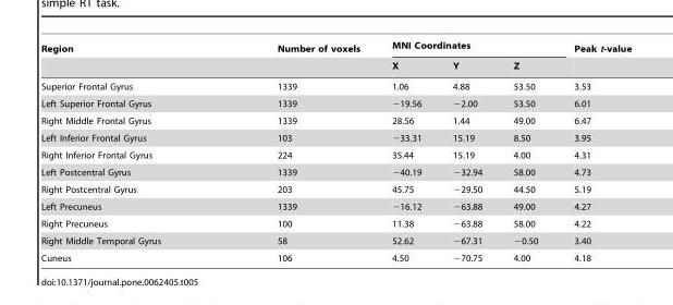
<table><thead><tr><td rowspan="2">Region</td><td rowspan="2">Number of voxels</td><td colspan="3">MNI Coordinates</td><td rowspan="2">Peak t-value</td></tr><tr><td>X</td><td>Y</td><td>Z</td></tr></thead><tbody><tr><td>Superior Frontal Gyrus</td><td>1339</td><td>1.06</td><td>4.88</td><td>53.50</td><td>3.53</td></tr><tr><td>Left Superior Frontal Gyrus</td><td>1339</td><td>−19.56</td><td>−2.00</td><td>53.50</td><td>6.01</td></tr><tr><td>Right Middle Frontal Gyrus</td><td>1339</td><td>28.56</td><td>1.44</td><td>49.00</td><td>6.47</td></tr><tr><td>Left Inferior Frontal Gyrus</td><td>103</td><td>−33.31</td><td>15.19</td><td>8.50</td><td>3.95</td></tr><tr><td>Right Inferior Frontal Gyrus</td><td>224</td><td>35.44</td><td>15.19</td><td>4.00</td><td>4.31</td></tr><tr><td>Left Postcentral Gyrus</td><td>1339</td><td>−40.19</td><td>−32.94</td><td>58.00</td><td>4.73</td></tr><tr><td>Right Postcentral Gyrus</td><td>203</td><td>45.75</td><td>−29.50</td><td>44.50</td><td>5.19</td></tr><tr><td>Left Precuneus</td><td>1339</td><td>−16.12</td><td>−63.88</td><td>49.00</td><td>4.27</td></tr><tr><td>Right Precuneus</td><td>100</td><td>11.38</td><td>−63.88</td><td>58.00</td><td>4.22</td></tr><tr><td>Right Middle Temporal Gyrus</td><td>58</td><td>52.62</td><td>−67.31</td><td>−0.50</td><td>3.40</td></tr><tr><td>Cuneus</td><td>106</td><td>4.50</td><td>−70.75</td><td>4.00</td><td>4.18</td></tr></tbody></table>